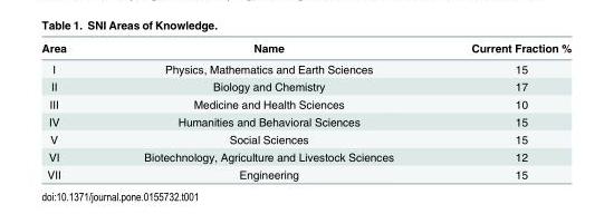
<table><thead><tr><td>Area</td><td>Name</td><td>Current Fraction %</td></tr></thead><tbody><tr><td>I</td><td>Physics, Mathematics and Earth Sciences</td><td>15</td></tr><tr><td>II</td><td>Biology and Chemistry</td><td>17</td></tr><tr><td>III</td><td>Medicine and Health Sciences</td><td>10</td></tr><tr><td>IV</td><td>Humanities and Behavioral Sciences</td><td>15</td></tr><tr><td>V</td><td>Social Sciences</td><td>15</td></tr><tr><td>VI</td><td>Biotechnology, Agriculture and Livestock Sciences</td><td>12</td></tr><tr><td>VII</td><td>Engineering</td><td>15</td></tr></tbody></table>